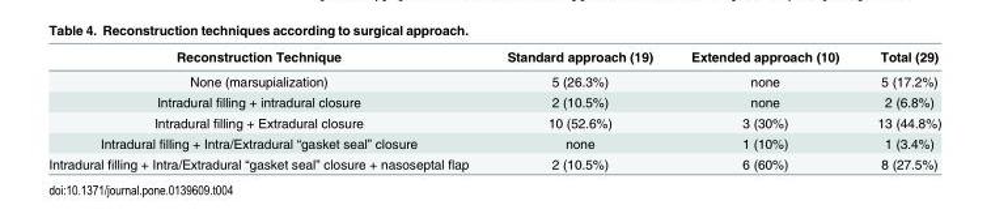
<table><thead><tr><td>Reconstruction Technique</td><td>Standard approach (19)</td><td>Extended approach (10)</td><td>Total (29)</td></tr></thead><tbody><tr><td>None (marsupialization)</td><td>5 (26.3%)</td><td>none</td><td>5 (17.2%)</td></tr><tr><td>Intradural filling + intradural closure</td><td>2 (10.5%)</td><td>none</td><td>2 (6.8%)</td></tr><tr><td>Intradural filling + Extradural closure</td><td>10 (52.6%)</td><td>3 (30%)</td><td>13 (44.8%)</td></tr><tr><td>Intradural filling + Intra/Extradural “gasket seal” closure</td><td>none</td><td>1 (10%)</td><td>1 (3.4%)</td></tr><tr><td>Intradural filling + Intra/Extradural “gasket seal” closure + nasoseptal flap</td><td>2 (10.5%)</td><td>6 (60%)</td><td>8 (27.5%)</td></tr></tbody></table>